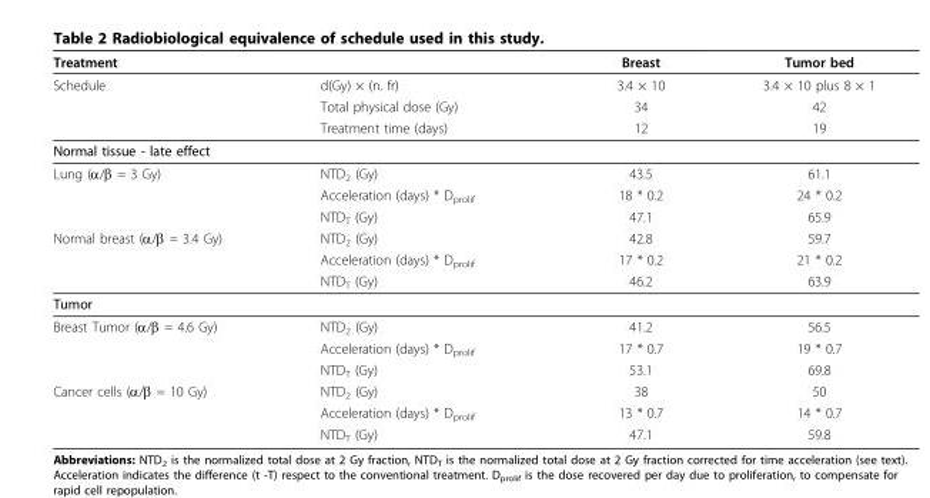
<table><thead><tr><td>Treatment</td><td></td><td>Breast</td><td>Tumor bed</td></tr></thead><tbody><tr><td rowspan="3">Schedule</td><td>d(Gy) × (n. fr)</td><td>3.4 × 10</td><td>3.4 × 10 plus 8 × 1</td></tr><tr><td>Total physical dose (Gy)</td><td>34</td><td>42</td></tr><tr><td>Treatment time (days)</td><td>12</td><td>19</td></tr><tr><td colspan="4">Normal tissue - late effect</td></tr><tr><td rowspan="3">Lung (α/β = 3 Gy)</td><td>NTD<sub>2</sub> (Gy)</td><td>43.5</td><td>61.1</td></tr><tr><td>Acceleration (days) * D<sub>prolif</sub></td><td>18 * 0.2</td><td>24 * 0.2</td></tr><tr><td>NTD<sub>T</sub> (Gy)</td><td>47.1</td><td>65.9</td></tr><tr><td rowspan="3">Normal breast (α/β = 3.4 Gy)</td><td>NTD<sub>2</sub> (Gy)</td><td>42.8</td><td>59.7</td></tr><tr><td>Acceleration (days) * D<sub>prolif</sub></td><td>17 * 0.2</td><td>21 * 0.2</td></tr><tr><td>NTD<sub>T</sub> (Gy)</td><td>46.2</td><td>63.9</td></tr><tr><td colspan="4">Tumor</td></tr><tr><td rowspan="3">Breast Tumor (α/β = 4.6 Gy)</td><td>NTD<sub>2</sub> (Gy)</td><td>41.2</td><td>56.5</td></tr><tr><td>Acceleration (days) * D<sub>prolif</sub></td><td>17 * 0.7</td><td>19 * 0.7</td></tr><tr><td>NTD<sub>T</sub> (Gy)</td><td>53.1</td><td>69.8</td></tr><tr><td rowspan="3">Cancer cells (α/β = 10 Gy)</td><td>NTD<sub>2</sub> (Gy)</td><td>38</td><td>50</td></tr><tr><td>Acceleration (days) * D<sub>prolif</sub></td><td>13 * 0.7</td><td>14 * 0.7</td></tr><tr><td>NTD<sub>T</sub> (Gy)</td><td>47.1</td><td>59.8</td></tr></tbody></table>